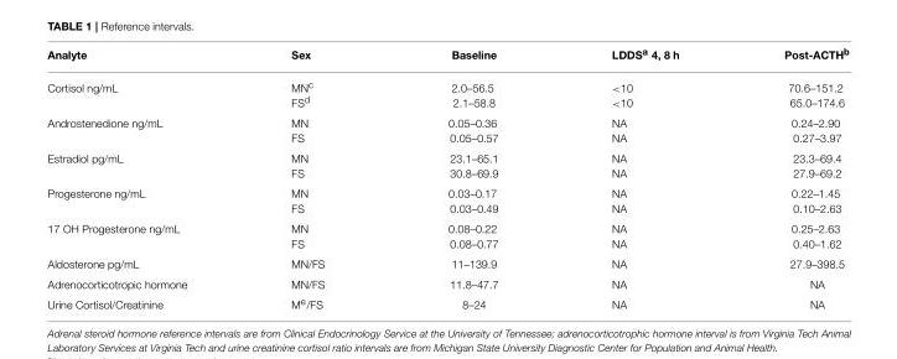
<table><thead><tr><td>Analyte</td><td>Sex</td><td>Baseline</td><td>LDDS<sup>a</sup> 4, 8 h</td><td>Post-ACTH<sup>b</sup></td></tr></thead><tbody><tr><td>Cortisol ng/mL</td><td>MN<sup>c</sup> FS<sup>d</sup></td><td>2.0–56.5 2.1–58.8</td><td>&lt;10 &lt;10</td><td>70.6–151.2 65.0–174.6</td></tr><tr><td>Androstenedione ng/mL</td><td>MN FS</td><td>0.05–0.36 0.05–0.57</td><td>NA NA</td><td>0.24–2.90 0.27–3.97</td></tr><tr><td>Estradiol pg/mL</td><td>MN FS</td><td>23.1–65.1 30.8–69.9</td><td>NA NA</td><td>23.3–69.4 27.9–69.2</td></tr><tr><td>Progesterone ng/mL</td><td>MN FS</td><td>0.03–0.17 0.03–0.49</td><td>NA NA</td><td>0.22–1.45 0.10–2.63</td></tr><tr><td>17 OH Progesterone ng/mL</td><td>MN FS</td><td>0.08–0.22 0.08–0.77</td><td>NA NA</td><td>0.25–2.63 0.40–1.62</td></tr><tr><td>Aldosterone pg/mL</td><td>MN/FS</td><td>11–139.9</td><td>NA</td><td>27.9–398.5</td></tr><tr><td>Adrenocorticotropic hormone</td><td>MN/FS</td><td>11.8–47.7</td><td>NA</td><td>NA</td></tr><tr><td>Urine Cortisol/Creatinine</td><td>M<sup>e</sup>/FS</td><td>8–24</td><td>NA</td><td>NA</td></tr></tbody></table>